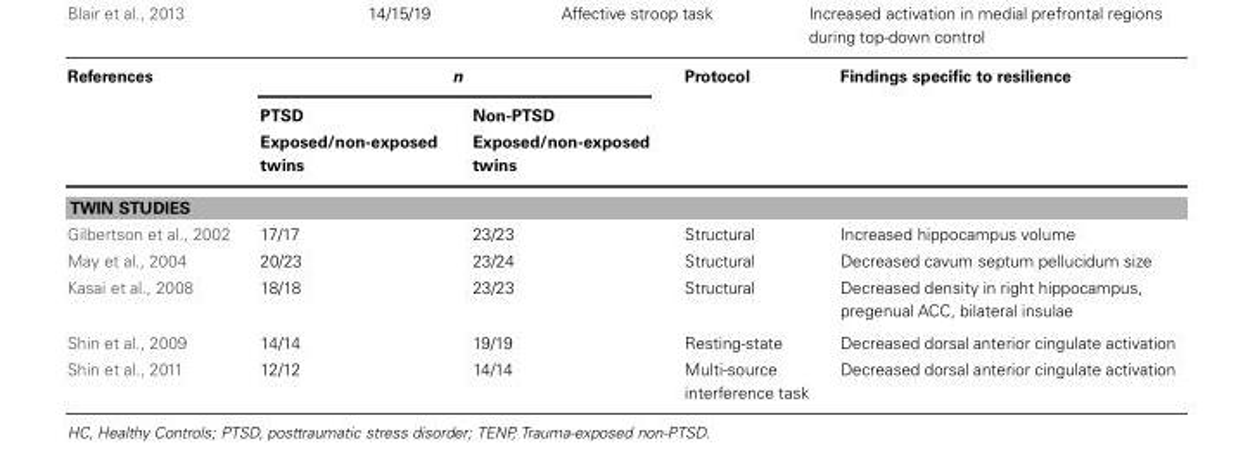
<table><thead><tr><td rowspan="3">References</td><td colspan="2">n</td><td rowspan="3">Protocol</td><td rowspan="3">Findings specific to resilience</td></tr><tr><td rowspan="2">PTSD Exposed/non-exposed twins</td><td rowspan="2">Non-PTSD Exposed/non-exposed twins</td></tr><tr></tr></thead><tbody><tr><td colspan="5">TWIN STUDIES</td></tr><tr><td>Gilbertson et al., 2002</td><td>17/17</td><td>23/23</td><td>Structural</td><td>Increased hippocampus volume</td></tr><tr><td>May et al., 2004</td><td>20/23</td><td>23/24</td><td>Structural</td><td>Decreased cavum septum pellucidum size</td></tr><tr><td>Kasai et al., 2008</td><td>18/18</td><td>23/23</td><td>Structural</td><td>Decreased density in right hippocampus, pregenual ACC, bilateral insulae</td></tr><tr><td>Shin et al., 2009</td><td>14/14</td><td>19/19</td><td>Resting-state</td><td>Decreased dorsal anterior cingulate activation</td></tr><tr><td>Shin et al., 2011</td><td>12/12</td><td>14/14</td><td>Multi-source interference task</td><td>Decreased dorsal anterior cingulate activation</td></tr></tbody></table>